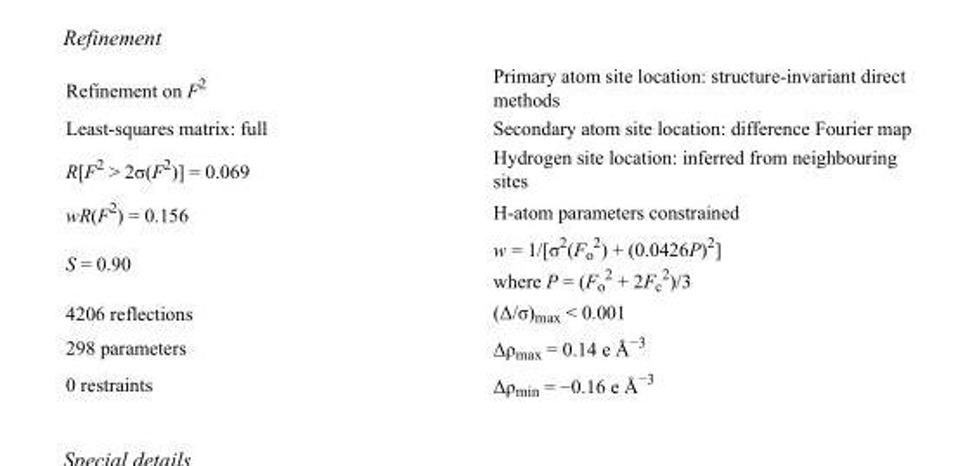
<table><tbody><tr><td>Refinement on F<sup>2</sup></td><td>Primary atom site location: structure-invariant direct methods</td></tr><tr><td>Least-squares matrix: full</td><td>Secondary atom site location: difference Fourier map</td></tr><tr><td>R[F<sup>2</sup> &gt; 2σ(F<sup>2</sup>)] = 0.069</td><td>Hydrogen site location: inferred from neighbouring sites</td></tr><tr><td>wR(F<sup>2</sup>) = 0.156</td><td>H-atom parameters constrained</td></tr><tr><td>S = 0.90</td><td>w = 1/[σ<sup>2</sup>(F<sub>o</sub> <sup>2</sup>) + (0.0426P)<sup>2</sup>] where P = (F<sub>o</sub> <sup>2</sup> + 2F<sub>c</sub> <sup>2</sup>)/3</td></tr><tr><td>4206 reflections</td><td>(Δ/σ)<sub>max</sub> &lt; 0.001</td></tr><tr><td>298 parameters</td><td>Δρ<sub>max</sub> = 0.14 e Å<sup>−3</sup></td></tr><tr><td>0 restraints</td><td>Δρ<sub>min</sub> = −0.16 e Å<sup>−3</sup></td></tr></tbody></table>